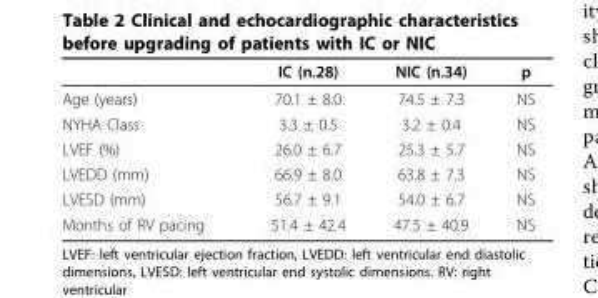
<table><thead><tr><td></td><td>IC (n.28)</td><td>NIC (n.34)</td><td>p</td></tr></thead><tbody><tr><td>Age (years)</td><td>70.1 ± 8.0</td><td>74.5 ± 7.3</td><td>NS</td></tr><tr><td>NYHA Class</td><td>3.3 ± 0.5</td><td>3.2 ± 0.4</td><td>NS</td></tr><tr><td>LVEF (%)</td><td>26.0 ± 6.7</td><td>25.3 ± 5.7</td><td>NS</td></tr><tr><td>LVEDD (mm)</td><td>66.9 ± 8.0</td><td>63.8 ± 7.3</td><td>NS</td></tr><tr><td>LVESD (mm)</td><td>56.7 ± 9.1</td><td>54.0 ± 6.7</td><td>NS</td></tr><tr><td>Months of RV pacing</td><td>51.4 ± 42.4</td><td>47.5 ± 40.9</td><td>NS</td></tr></tbody></table>